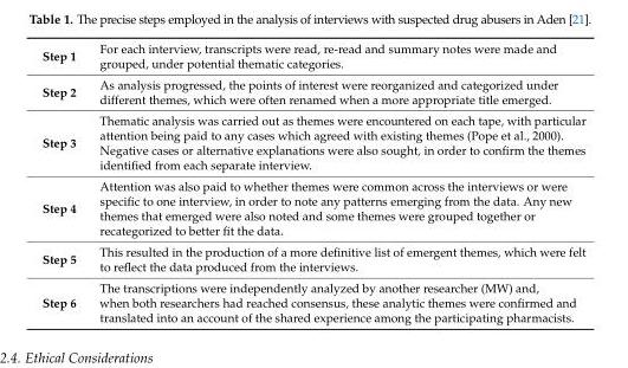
<table><tbody><tr><td>Step 1</td><td>For each interview, transcripts were read, re-read and summary notes were made and grouped, under potential thematic categories.</td></tr><tr><td>Step 2</td><td>As analysis progressed, the points of interest were reorganized and categorized under different themes, which were often renamed when a more appropriate title emerged.</td></tr><tr><td>Step 3</td><td>Thematic analysis was carried out as themes were encountered on each tape, with particular attention being paid to any cases which agreed with existing themes (Pope et al., 2000). Negative cases or alternative explanations were also sought, in order to confirm the themes identified from each separate interview.</td></tr><tr><td>Step 4</td><td>Attention was also paid to whether themes were common across the interviews or were specific to one interview, in order to note any patterns emerging from the data. Any new themes that emerged were also noted and some themes were grouped together or recategorized to better fit the data.</td></tr><tr><td>Step 5</td><td>This resulted in the production of a more definitive list of emergent themes, which were felt to reflect the data produced from the interviews.</td></tr><tr><td>Step 6</td><td>The transcriptions were independently analyzed by another researcher (MW) and, when both researchers had reached consensus, these analytic themes were confirmed and translated into an account of the shared experience among the participating pharmacists.</td></tr></tbody></table>